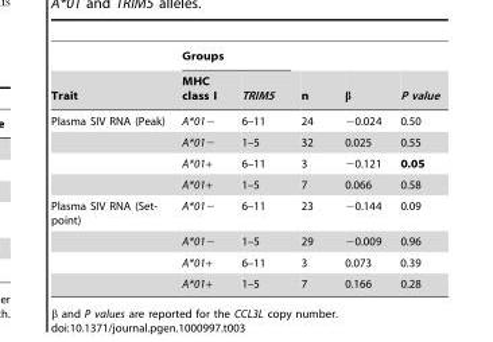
<table><thead><tr><td rowspan="2">Trait</td><td colspan="2">Groups</td><td rowspan="2">n</td><td rowspan="2">β</td><td rowspan="2">P value</td></tr><tr><td>MHC class I</td><td>TRIM5</td></tr></thead><tbody><tr><td rowspan="4">Plasma SIV RNA (Peak)</td><td>A*01−</td><td>6–11</td><td>24</td><td>−0.024</td><td>0.50</td></tr><tr><td>A*01−</td><td>1–5</td><td>32</td><td>0.025</td><td>0.55</td></tr><tr><td>A*01+</td><td>6–11</td><td>3</td><td>−0.121</td><td>0.05</td></tr><tr><td>A*01+</td><td>1–5</td><td>7</td><td>0.066</td><td>0.58</td></tr><tr><td rowspan="4">Plasma SIV RNA (Set- point)</td><td>A*01−</td><td>6–11</td><td>23</td><td>−0.144</td><td>0.09</td></tr><tr><td>A*01−</td><td>1–5</td><td>29</td><td>−0.009</td><td>0.96</td></tr><tr><td>A*01+</td><td>6–11</td><td>3</td><td>0.073</td><td>0.39</td></tr><tr><td>A*01+</td><td>1–5</td><td>7</td><td>0.166</td><td>0.28</td></tr></tbody></table>